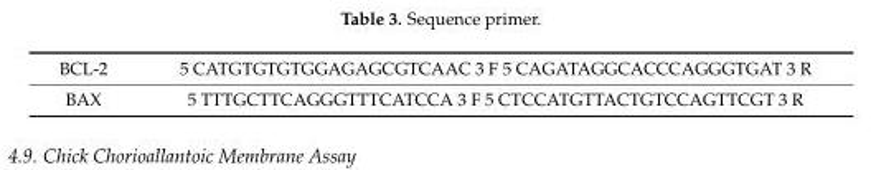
<table><tbody><tr><td>BCL-2</td><td>5 CATGTGTGTGGAGAGCGTCAAC 3 F 5 CAGATAGGCACCCAGGGTGAT 3 R</td></tr><tr><td>BAX</td><td>5 TTTGCTTCAGGGTTTCATCCA 3 F 5 CTCCATGTTACTGTCCAGTTCGT 3 R</td></tr></tbody></table>